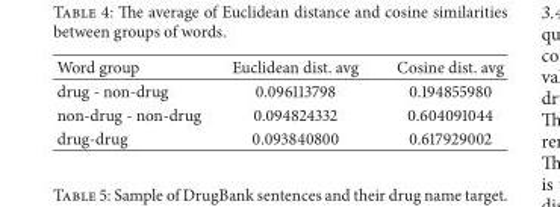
<table><thead><tr><td>Word group</td><td>Euclidean dist. avg</td><td>Cosine dist. avg</td></tr></thead><tbody><tr><td>drug - non-drug</td><td>0.096113798</td><td>0.194855980</td></tr><tr><td>non-drug - non-drug</td><td>0.094824332</td><td>0.604091044</td></tr><tr><td>drug-drug</td><td>0.093840800</td><td>0.617929002</td></tr></tbody></table>